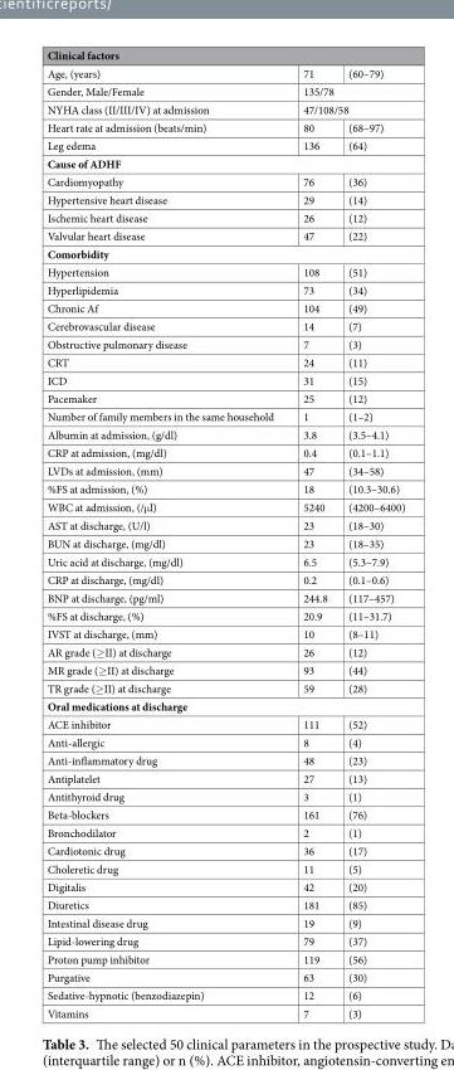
<table><thead><tr><td colspan="3">Clinical factors</td></tr><tr><td>Age, (years)</td><td>71</td><td>(60–79)</td></tr></thead><tbody><tr><td>Gender, Male/Female</td><td colspan="2">135/78</td></tr><tr><td>NYHA class (II/III/IV) at admission</td><td colspan="2">47/108/58</td></tr><tr><td>Heart rate at admission (beats/min)</td><td>80</td><td>(68–97)</td></tr><tr><td>Leg edema</td><td>136</td><td>(64)</td></tr><tr><td colspan="3">Cause of ADHF</td></tr><tr><td>Cardiomyopathy</td><td>76</td><td>(36)</td></tr><tr><td>Hypertensive heart disease</td><td>29</td><td>(14)</td></tr><tr><td>Ischemic heart disease</td><td>26</td><td>(12)</td></tr><tr><td>Valvular heart disease</td><td>47</td><td>(22)</td></tr><tr><td colspan="3">Comorbidity</td></tr><tr><td>Hypertension</td><td>108</td><td>(51)</td></tr><tr><td>Hyperlipidemia</td><td>73</td><td>(34)</td></tr><tr><td>Chronic Af</td><td>104</td><td>(49)</td></tr><tr><td>Cerebrovascular disease</td><td>14</td><td>(7)</td></tr><tr><td>Obstructive pulmonary disease</td><td>7</td><td>(3)</td></tr><tr><td>CRT</td><td>24</td><td>(11)</td></tr><tr><td>ICD</td><td>31</td><td>(15)</td></tr><tr><td>Pacemaker</td><td>25</td><td>(12)</td></tr><tr><td>Number of family members in the same household</td><td>1</td><td>(1–2)</td></tr><tr><td>Albumin at admission, (g/dl)</td><td>3.8</td><td>(3.5–4.1)</td></tr><tr><td>CRP at admission, (mg/dl)</td><td>0.4</td><td>(0.1–1.1)</td></tr><tr><td>LVDs at admission, (mm)</td><td>47</td><td>(34–58)</td></tr><tr><td>%FS at admission, (%)</td><td>18</td><td>(10.3–30.6)</td></tr><tr><td>WBC at admission, (/μl)</td><td>5240</td><td>(4200–6400)</td></tr><tr><td>AST at discharge, (U/l)</td><td>23</td><td>(18–30)</td></tr><tr><td>BUN at discharge, (mg/dl)</td><td>23</td><td>(18–35)</td></tr><tr><td>Uric acid at discharge, (mg/dl)</td><td>6.5</td><td>(5.3–7.9)</td></tr><tr><td>CRP at discharge, (mg/dl)</td><td>0.2</td><td>(0.1–0.6)</td></tr><tr><td>BNP at discharge, (pg/ml)</td><td>244.8</td><td>(117–457)</td></tr><tr><td>%FS at discharge, (%)</td><td>20.9</td><td>(11–31.7)</td></tr><tr><td>IVST at discharge, (mm)</td><td>10</td><td>(8–11)</td></tr><tr><td>AR grade (≥II) at discharge</td><td>26</td><td>(12)</td></tr><tr><td>MR grade (≥II) at discharge</td><td>93</td><td>(44)</td></tr><tr><td>TR grade (≥II) at discharge</td><td>59</td><td>(28)</td></tr><tr><td colspan="3">Oral medications at discharge</td></tr><tr><td>ACE inhibitor</td><td>111</td><td>(52)</td></tr><tr><td>Anti-allergic</td><td>8</td><td>(4)</td></tr><tr><td>Anti-inflammatory drug</td><td>48</td><td>(23)</td></tr><tr><td>Antiplatelet</td><td>27</td><td>(13)</td></tr><tr><td>Antithyroid drug</td><td>3</td><td>(1)</td></tr><tr><td>Beta-blockers</td><td>161</td><td>(76)</td></tr><tr><td>Bronchodilator</td><td>2</td><td>(1)</td></tr><tr><td>Cardiotonic drug</td><td>36</td><td>(17)</td></tr><tr><td>Choleretic drug</td><td>11</td><td>(5)</td></tr><tr><td>Digitalis</td><td>42</td><td>(20)</td></tr><tr><td>Diuretics</td><td>181</td><td>(85)</td></tr><tr><td>Intestinal disease drug</td><td>19</td><td>(9)</td></tr><tr><td>Lipid-lowering drug</td><td>79</td><td>(37)</td></tr><tr><td>Proton pump inhibitor</td><td>119</td><td>(56)</td></tr><tr><td>Purgative</td><td>63</td><td>(30)</td></tr><tr><td>Sedative-hypnotic (benzodiazepin)</td><td>12</td><td>(6)</td></tr><tr><td>Vitamins</td><td>7</td><td>(3)</td></tr></tbody></table>